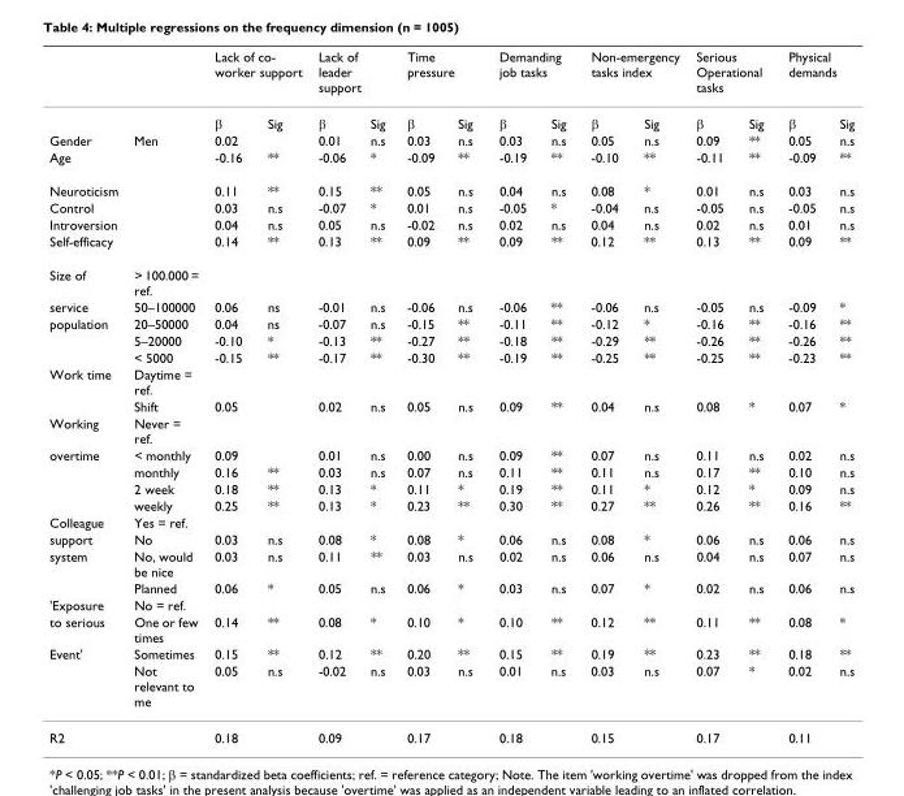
<table><thead><tr><td rowspan="2"></td><td rowspan="2"></td><td colspan="2">Lack of co- worker support</td><td colspan="2">Lack of leader support</td><td colspan="2">Time pressure</td><td colspan="2">Demanding job tasks</td><td colspan="2">Non-emergency tasks index</td><td colspan="2">Serious Operational tasks</td><td colspan="2">Physical demands</td></tr><tr><td>β</td><td>Sig</td><td>β</td><td>Sig</td><td>β</td><td>Sig</td><td>β</td><td>Sig</td><td>β</td><td>Sig</td><td>β</td><td>Sig</td><td>β</td><td>Sig</td></tr></thead><tbody><tr><td>Gender</td><td>Men</td><td>0.02</td><td></td><td>0.01</td><td>n.s</td><td>0.03</td><td>n.s</td><td>0.03</td><td>n.s</td><td>0.05</td><td>n.s</td><td>0.09</td><td>**</td><td>0.05</td><td>n.s</td></tr><tr><td>Age</td><td></td><td>-0.16</td><td>**</td><td>-0.06</td><td>*</td><td>-0.09</td><td>**</td><td>-0.19</td><td>**</td><td>-0.10</td><td>**</td><td>-0.11</td><td>**</td><td>-0.09</td><td>**</td></tr><tr><td>Neuroticism</td><td></td><td>0.11</td><td>**</td><td>0.15</td><td>**</td><td>0.05</td><td>n.s</td><td>0.04</td><td>n.s</td><td>0.08</td><td>*</td><td>0.01</td><td>n.s</td><td>0.03</td><td>n.s</td></tr><tr><td>Control</td><td></td><td>0.03</td><td>n.s</td><td>-0.07</td><td>*</td><td>0.01</td><td>n.s</td><td>-0.05</td><td>*</td><td>-0.04</td><td>n.s</td><td>-0.05</td><td>n.s</td><td>-0.05</td><td>n.s</td></tr><tr><td>Introversion</td><td></td><td>0.04</td><td>n.s</td><td>0.05</td><td>n.s</td><td>-0.02</td><td>n.s</td><td>0.02</td><td>n.s</td><td>0.04</td><td>n.s</td><td>0.02</td><td>n.s</td><td>0.01</td><td>n.s</td></tr><tr><td>Self-efficacy</td><td></td><td>0.14</td><td>**</td><td>0.13</td><td>**</td><td>0.09</td><td>**</td><td>0.09</td><td>**</td><td>0.12</td><td>**</td><td>0.13</td><td>**</td><td>0.09</td><td>**</td></tr><tr><td>Size of</td><td>&gt; 100.000 = ref.</td><td></td><td></td><td></td><td></td><td></td><td></td><td></td><td></td><td></td><td></td><td></td><td></td><td></td><td></td></tr><tr><td>service</td><td>50–100000</td><td>0.06</td><td>ns</td><td>-0.01</td><td>n.s</td><td>-0.06</td><td>n.s</td><td>-0.06</td><td>**</td><td>-0.06</td><td>n.s</td><td>-0.05</td><td>n.s</td><td>-0.09</td><td>*</td></tr><tr><td rowspan="3">population</td><td>20–50000</td><td>0.04</td><td>ns</td><td>-0.07</td><td>n.s</td><td>-0.15</td><td>**</td><td>-0.11</td><td>**</td><td>-0.12</td><td>*</td><td>-0.16</td><td>**</td><td>-0.16</td><td>**</td></tr><tr><td>5–20000</td><td>-0.10</td><td>*</td><td>-0.13</td><td>**</td><td>-0.27</td><td>**</td><td>-0.18</td><td>**</td><td>-0.29</td><td>**</td><td>-0.26</td><td>**</td><td>-0.26</td><td>**</td></tr><tr><td>&lt; 5000</td><td>-0.15</td><td>**</td><td>-0.17</td><td>**</td><td>-0.30</td><td>**</td><td>-0.19</td><td>**</td><td>-0.25</td><td>**</td><td>-0.25</td><td>**</td><td>-0.23</td><td>**</td></tr><tr><td rowspan="2">Work time</td><td>Daytime = ref.</td><td></td><td></td><td></td><td></td><td></td><td></td><td></td><td></td><td></td><td></td><td></td><td></td><td></td><td></td></tr><tr><td>Shift</td><td>0.05</td><td></td><td>0.02</td><td>n.s</td><td>0.05</td><td>n.s</td><td>0.09</td><td>**</td><td>0.04</td><td>n.s</td><td>0.08</td><td>*</td><td>0.07</td><td>*</td></tr><tr><td>Working</td><td>Never = ref.</td><td></td><td></td><td></td><td></td><td></td><td></td><td></td><td></td><td></td><td></td><td></td><td></td><td></td><td></td></tr><tr><td rowspan="4">overtime</td><td>&lt; monthly</td><td>0.09</td><td></td><td>0.01</td><td>n.s</td><td>0.00</td><td>n.s</td><td>0.09</td><td>**</td><td>0.07</td><td>n.s</td><td>0.11</td><td>n.s</td><td>0.02</td><td>n.s</td></tr><tr><td>monthly</td><td>0.16</td><td>**</td><td>0.03</td><td>n.s</td><td>0.07</td><td>n.s</td><td>0.11</td><td>**</td><td>0.11</td><td>n.s</td><td>0.17</td><td>**</td><td>0.10</td><td>n.s</td></tr><tr><td>2 week</td><td>0.18</td><td>**</td><td>0.13</td><td>*</td><td>0.11</td><td>*</td><td>0.19</td><td>**</td><td>0.11</td><td>*</td><td>0.12</td><td>*</td><td>0.09</td><td>n.s</td></tr><tr><td>weekly</td><td>0.25</td><td>**</td><td>0.13</td><td>*</td><td>0.23</td><td>**</td><td>0.30</td><td>**</td><td>0.27</td><td>**</td><td>0.26</td><td>**</td><td>0.16</td><td>**</td></tr><tr><td>Colleague</td><td>Yes = ref.</td><td></td><td></td><td></td><td></td><td></td><td></td><td></td><td></td><td></td><td></td><td></td><td></td><td></td><td></td></tr><tr><td>support</td><td>No</td><td>0.03</td><td>n.s</td><td>0.08</td><td>*</td><td>0.08</td><td>*</td><td>0.06</td><td>n.s</td><td>0.08</td><td>*</td><td>0.06</td><td>n.s</td><td>0.06</td><td>n.s</td></tr><tr><td rowspan="2">system</td><td>No, would be nice</td><td>0.03</td><td>n.s</td><td>0.11</td><td>**</td><td>0.03</td><td>n.s</td><td>0.02</td><td>n.s</td><td>0.06</td><td>n.s</td><td>0.04</td><td>n.s</td><td>0.07</td><td>n.s</td></tr><tr><td>Planned</td><td>0.06</td><td>*</td><td>0.05</td><td>n.s</td><td>0.06</td><td>*</td><td>0.03</td><td>n.s</td><td>0.07</td><td>*</td><td>0.02</td><td>n.s</td><td>0.06</td><td>n.s</td></tr><tr><td>&#x27;Exposure</td><td>No = ref.</td><td></td><td></td><td></td><td></td><td></td><td></td><td></td><td></td><td></td><td></td><td></td><td></td><td></td><td></td></tr><tr><td>to serious</td><td>One or few times</td><td>0.14</td><td>**</td><td>0.08</td><td>*</td><td>0.10</td><td>*</td><td>0.10</td><td>**</td><td>0.12</td><td>**</td><td>0.11</td><td>**</td><td>0.08</td><td>*</td></tr><tr><td rowspan="2">Event&#x27;</td><td>Sometimes</td><td>0.15</td><td>**</td><td>0.12</td><td>**</td><td>0.20</td><td>**</td><td>0.15</td><td>**</td><td>0.19</td><td>**</td><td>0.23</td><td>**</td><td>0.18</td><td>**</td></tr><tr><td>Not relevant to me</td><td>0.05</td><td>n.s</td><td>-0.02</td><td>n.s</td><td>0.03</td><td>n.s</td><td>0.01</td><td>n.s</td><td>0.03</td><td>n.s</td><td>0.07</td><td>*</td><td>0.02</td><td>n.s</td></tr><tr><td>R2</td><td></td><td>0.18</td><td></td><td>0.09</td><td></td><td>0.17</td><td></td><td>0.18</td><td></td><td>0.15</td><td></td><td>0.17</td><td></td><td>0.11</td><td></td></tr></tbody></table>